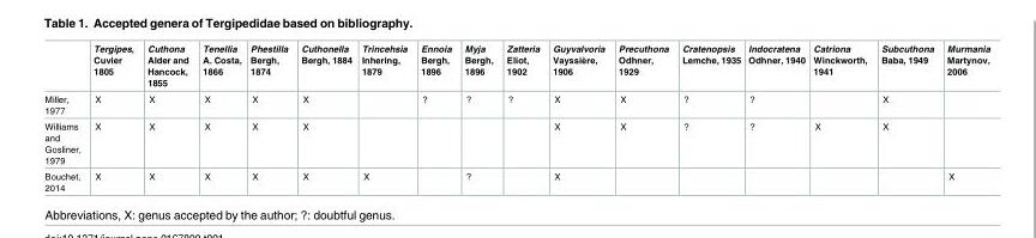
<table><thead><tr><td></td><td>Tergipes, Cuvier 1805</td><td>Cuthona Alder and Hancock, 1855</td><td>Tenellia A. Costa, 1866</td><td>Phestilla Bergh, 1874</td><td>Cuthonella Bergh, 1884</td><td>Trincehsia Inhering, 1879</td><td>Ennoia Bergh, 1896</td><td>Myja Bergh, 1896</td><td>Zatteria Eliot, 1902</td><td>Guyvalvoria Vayssière, 1906</td><td>Precuthona Odhner, 1929</td><td>Cratenopsis Lemche, 1935</td><td>Indocratena Odhner, 1940</td><td>Catriona Winckworth, 1941</td><td>Subcuthona Baba, 1949</td><td>Murmania Martynov, 2006</td></tr></thead><tbody><tr><td>Miller, 1977</td><td>X</td><td>X</td><td>X</td><td>X</td><td>X</td><td></td><td>?</td><td>?</td><td>?</td><td>X</td><td>X</td><td>?</td><td>?</td><td></td><td>X</td><td></td></tr><tr><td>Williams and Gosliner, 1979</td><td>X</td><td>X</td><td>X</td><td>X</td><td>X</td><td></td><td></td><td></td><td></td><td>X</td><td>X</td><td>?</td><td>?</td><td>X</td><td>X</td><td></td></tr><tr><td>Bouchet, 2014</td><td>X</td><td>X</td><td>X</td><td>X</td><td>X</td><td>X</td><td></td><td>?</td><td></td><td>X</td><td></td><td></td><td></td><td></td><td></td><td>X</td></tr></tbody></table>